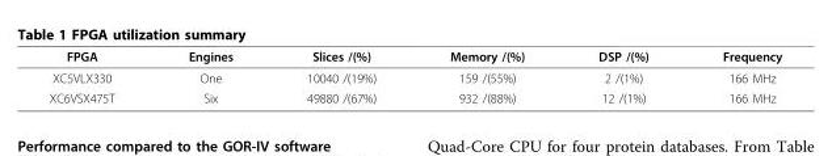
<table><thead><tr><td>FPGA</td><td>Engines</td><td>Slices /(%)</td><td>Memory /(%)</td><td>DSP /(%)</td><td>Frequency</td></tr></thead><tbody><tr><td>XC5VLX330</td><td>One</td><td>10040 /(19%)</td><td>159 /(55%)</td><td>2 /(1%)</td><td>166 MHz</td></tr><tr><td>XC6VSX475T</td><td>Six</td><td>49880 /(67%)</td><td>932 /(88%)</td><td>12 /(1%)</td><td>166 MHz</td></tr></tbody></table>